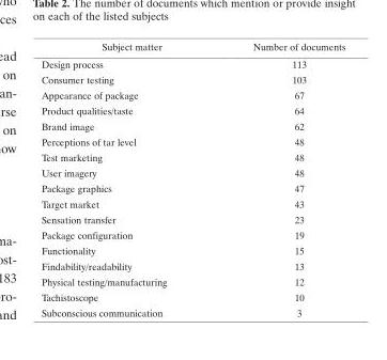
<table><thead><tr><td>Subject matter</td><td>Number of documents</td></tr></thead><tbody><tr><td>Design process</td><td>113</td></tr><tr><td>Consumer testing</td><td>103</td></tr><tr><td>Appearance of package</td><td>67</td></tr><tr><td>Product qualities/taste</td><td>64</td></tr><tr><td>Brand image</td><td>62</td></tr><tr><td>Perceptions of tar level</td><td>48</td></tr><tr><td>Test marketing</td><td>48</td></tr><tr><td>User imagery</td><td>48</td></tr><tr><td>Package graphics</td><td>47</td></tr><tr><td>Target market</td><td>43</td></tr><tr><td>Sensation transfer</td><td>23</td></tr><tr><td>Package configuration</td><td>19</td></tr><tr><td>Functionality</td><td>15</td></tr><tr><td>Findability/readability</td><td>13</td></tr><tr><td>Physical testing/manufacturing</td><td>12</td></tr><tr><td>Tachistoscope</td><td>10</td></tr><tr><td>Subconscious communication</td><td>3</td></tr></tbody></table>